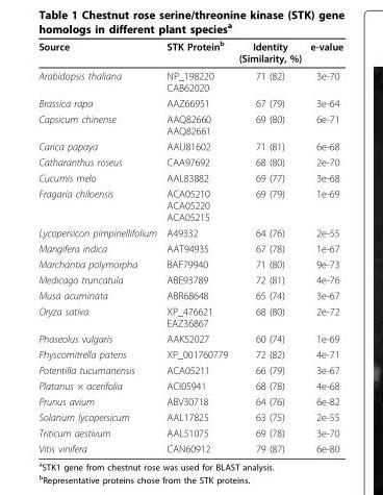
<table><thead><tr><td>Source</td><td>STK Protein<sup>b</sup></td><td>Identity (Similarity, %)</td><td>e-value</td></tr></thead><tbody><tr><td>Arabidopsis thaliana</td><td>NP_198220 CAB62020</td><td>71 (82)</td><td>3e-70</td></tr><tr><td>Brassica rapa</td><td>AAZ66951</td><td>67 (79)</td><td>3e-64</td></tr><tr><td>Capsicum chinense</td><td>AAQ82660 AAQ82661</td><td>69 (80)</td><td>6e-71</td></tr><tr><td>Carica papaya</td><td>AAU81602</td><td>71 (81)</td><td>6e-68</td></tr><tr><td>Catharanthus roseus</td><td>CAA97692</td><td>68 (80)</td><td>2e-70</td></tr><tr><td>Cucumis melo</td><td>AAL83882</td><td>69 (77)</td><td>3e-68</td></tr><tr><td>Fragaria chiloensis</td><td>ACA05210 ACA05220 ACA05215</td><td>69 (79)</td><td>1e-69</td></tr><tr><td>Lycopersicon pimpinellifolium</td><td>A49332</td><td>64 (76)</td><td>2e-55</td></tr><tr><td>Mangifera indica</td><td>AAT94935</td><td>67 (78)</td><td>1e-67</td></tr><tr><td>Marchantia polymorpha</td><td>BAF79940</td><td>71 (80)</td><td>9e-73</td></tr><tr><td>Medicago truncatula</td><td>ABE93789</td><td>72 (81)</td><td>4e-76</td></tr><tr><td>Musa acuminata</td><td>ABR68648</td><td>65 (74)</td><td>3e-67</td></tr><tr><td>Oryza sativa</td><td>XP_476621 EAZ36867</td><td>68 (80)</td><td>2e-72</td></tr><tr><td>Phaseolus vulgaris</td><td>AAK52027</td><td>60 (74)</td><td>1e-69</td></tr><tr><td>Physcomitrella patens</td><td>XP_001760779</td><td>72 (82)</td><td>4e-71</td></tr><tr><td>Potentilla tucumanensis</td><td>ACA05211</td><td>66 (79)</td><td>3e-67</td></tr><tr><td>Platanus × acerifolia</td><td>ACI05941</td><td>68 (78)</td><td>4e-68</td></tr><tr><td>Prunus avium</td><td>ABV30718</td><td>64 (76)</td><td>6e-82</td></tr><tr><td>Solanum lycopersicum</td><td>AAL17825</td><td>63 (75)</td><td>2e-55</td></tr><tr><td>Triticum aestivum</td><td>AAL51075</td><td>69 (78)</td><td>3e-70</td></tr><tr><td>Vitis vinifera</td><td>CAN60912</td><td>79 (87)</td><td>6e-80</td></tr></tbody></table>